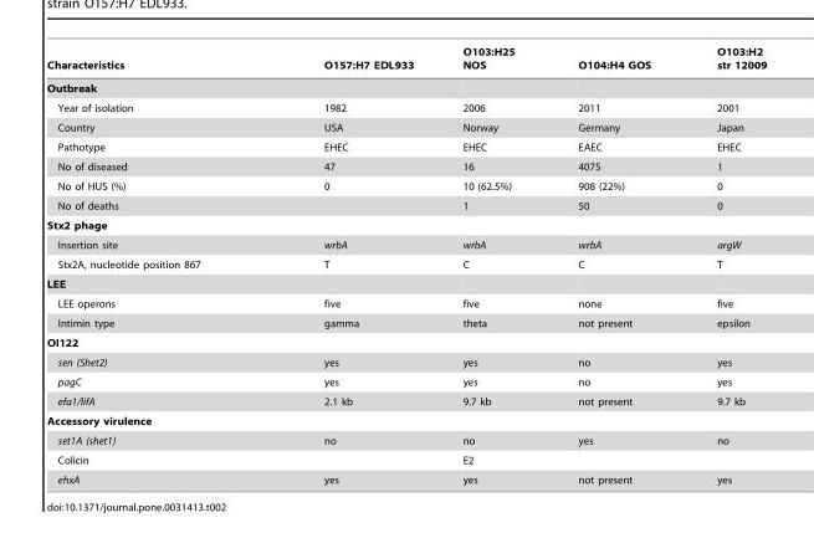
<table><thead><tr><td>Characteristics</td><td>O157:H7 EDL933</td><td>O103:H25 NOS</td><td>O104:H4 GOS</td><td>O103:H2 str 12009</td></tr></thead><tbody><tr><td colspan="5">Outbreak</td></tr><tr><td>Year of isolation</td><td>1982</td><td>2006</td><td>2011</td><td>2001</td></tr><tr><td>Country</td><td>USA</td><td>Norway</td><td>Germany</td><td>Japan</td></tr><tr><td>Pathotype</td><td>EHEC</td><td>EHEC</td><td>EAEC</td><td>EHEC</td></tr><tr><td>No of diseased</td><td>47</td><td>16</td><td>4075</td><td>1</td></tr><tr><td>No of HUS (%)</td><td>0</td><td>10 (62.5%)</td><td>908 (22%)</td><td>0</td></tr><tr><td>No of deaths</td><td></td><td>1</td><td>50</td><td>0</td></tr><tr><td colspan="5">Stx2 phage</td></tr><tr><td>Insertion site</td><td>wrbA</td><td>wrbA</td><td>wrbA</td><td>argW</td></tr><tr><td>Stx2A, nucleotide position 867</td><td>T</td><td>C</td><td>C</td><td>T</td></tr><tr><td colspan="5">LEE</td></tr><tr><td>LEE operons</td><td>five</td><td>five</td><td>none</td><td>five</td></tr><tr><td>Intimin type</td><td>gamma</td><td>theta</td><td>not present</td><td>epsilon</td></tr><tr><td colspan="5">OI122</td></tr><tr><td>sen (Shet2)</td><td>yes</td><td>yes</td><td>no</td><td>yes</td></tr><tr><td>pagC</td><td>yes</td><td>yes</td><td>no</td><td>yes</td></tr><tr><td>efa1/lifA</td><td>2.1 kb</td><td>9.7 kb</td><td>not present</td><td>9.7 kb</td></tr><tr><td colspan="5">Accessory virulence</td></tr><tr><td>set1A (shet1)</td><td>no</td><td>no</td><td>yes</td><td>no</td></tr><tr><td>Colicin</td><td></td><td>E2</td><td></td><td></td></tr><tr><td>ehxA</td><td>yes</td><td>yes</td><td>not present</td><td>yes</td></tr></tbody></table>